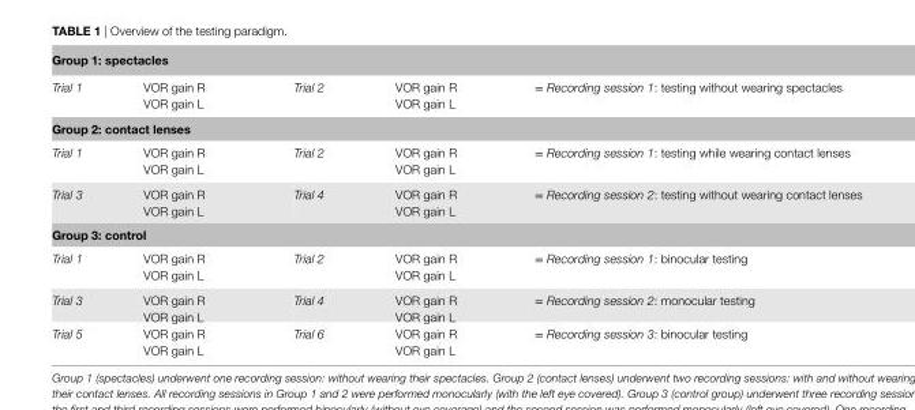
<table><tbody><tr><td colspan="5">group 1: spectacles</td></tr><tr><td rowspan="2">Trial 1</td><td>VOR gain R</td><td rowspan="2">Trial 2</td><td>VOR gain R</td><td rowspan="2">= Recording session 1: testing without wearing spectacles</td></tr><tr><td>VOR gain L</td><td>VOR gain L</td></tr><tr><td colspan="5">group 2: contact lenses</td></tr><tr><td rowspan="2">Trial 1</td><td>VOR gain R</td><td rowspan="2">Trial 2</td><td>VOR gain R</td><td rowspan="2">= Recording session 1: testing while wearing contact lenses</td></tr><tr><td>VOR gain L</td><td>VOR gain L</td></tr><tr><td rowspan="2">Trial 3</td><td>VOR gain R</td><td rowspan="2">Trial 4</td><td>VOR gain R</td><td rowspan="2">= Recording session 2: testing without wearing contact lenses</td></tr><tr><td>VOR gain L</td><td>VOR gain L</td></tr><tr><td colspan="5">group 3: control</td></tr><tr><td rowspan="2">Trial 1</td><td>VOR gain R</td><td rowspan="2">Trial 2</td><td>VOR gain R</td><td rowspan="2">= Recording session 1: binocular testing</td></tr><tr><td>VOR gain L</td><td>VOR gain L</td></tr><tr><td rowspan="2">Trial 3</td><td>VOR gain R</td><td rowspan="2">Trial 4</td><td>VOR gain R</td><td rowspan="2">= Recording session 2: monocular testing</td></tr><tr><td>VOR gain L</td><td>VOR gain L</td></tr><tr><td rowspan="2">Trial 5</td><td>VOR gain R</td><td rowspan="2">Trial 6</td><td>VOR gain R</td><td rowspan="2">= Recording session 3: binocular testing</td></tr><tr><td>VOR gain L</td><td>VOR gain L</td></tr></tbody></table>